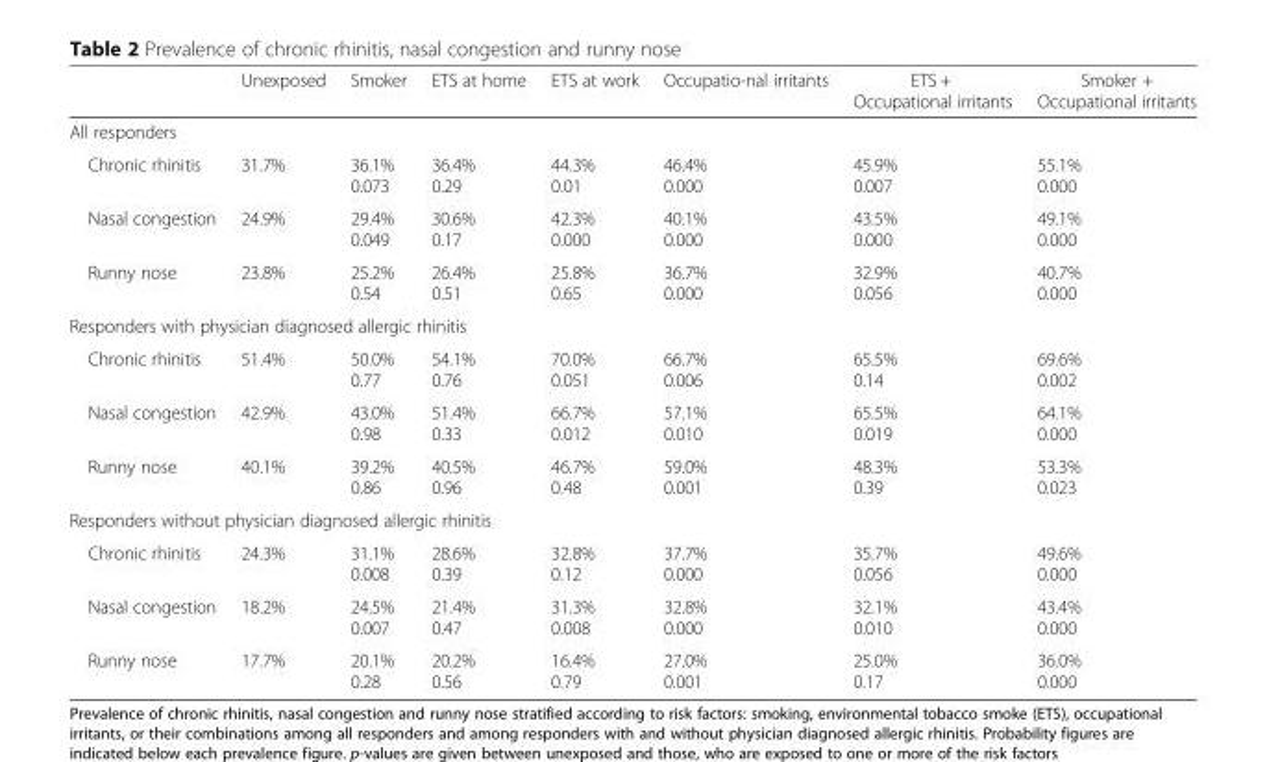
<table><thead><tr><td></td><td>Unexposed</td><td>Smoker</td><td>ETS at home</td><td>ETS at work</td><td>Occupatio-nal irritants</td><td>ETS + Occupational irritants</td><td>Smoker + Occupational irritants</td></tr></thead><tbody><tr><td colspan="8">All responders</td></tr><tr><td>Chronic rhinitis</td><td>31.7%</td><td>36.1% 0.073</td><td>36.4% 0.29</td><td>44.3% 0.01</td><td>46.4% 0.000</td><td>45.9% 0.007</td><td>55.1% 0.000</td></tr><tr><td>Nasal congestion</td><td>24.9%</td><td>29.4% 0.049</td><td>30.6% 0.17</td><td>42.3% 0.000</td><td>40.1% 0.000</td><td>43.5% 0.000</td><td>49.1% 0.000</td></tr><tr><td>Runny nose</td><td>23.8%</td><td>25.2% 0.54</td><td>26.4% 0.51</td><td>25.8% 0.65</td><td>36.7% 0.000</td><td>32.9% 0.056</td><td>40.7% 0.000</td></tr><tr><td colspan="8">Responders with physician diagnosed allergic rhinitis</td></tr><tr><td>Chronic rhinitis</td><td>51.4%</td><td>50.0% 0.77</td><td>54.1% 0.76</td><td>70.0% 0.051</td><td>66.7% 0.006</td><td>65.5% 0.14</td><td>69.6% 0.002</td></tr><tr><td>Nasal congestion</td><td>42.9%</td><td>43.0% 0.98</td><td>51.4% 0.33</td><td>66.7% 0.012</td><td>57.1% 0.010</td><td>65.5% 0.019</td><td>64.1% 0.000</td></tr><tr><td>Runny nose</td><td>40.1%</td><td>39.2% 0.86</td><td>40.5% 0.96</td><td>46.7% 0.48</td><td>59.0% 0.001</td><td>48.3% 0.39</td><td>53.3% 0.023</td></tr><tr><td colspan="8">Responders without physician diagnosed allergic rhinitis</td></tr><tr><td>Chronic rhinitis</td><td>24.3%</td><td>31.1% 0.008</td><td>28.6% 0.39</td><td>32.8% 0.12</td><td>37.7% 0.000</td><td>35.7% 0.056</td><td>49.6% 0.000</td></tr><tr><td>Nasal congestion</td><td>18.2%</td><td>24.5% 0.007</td><td>21.4% 0.47</td><td>31.3% 0.008</td><td>32.8% 0.000</td><td>32.1% 0.010</td><td>43.4% 0.000</td></tr><tr><td>Runny nose</td><td>17.7%</td><td>20.1% 0.28</td><td>20.2% 0.56</td><td>16.4% 0.79</td><td>27.0% 0.001</td><td>25.0% 0.17</td><td>36.0% 0.000</td></tr></tbody></table>